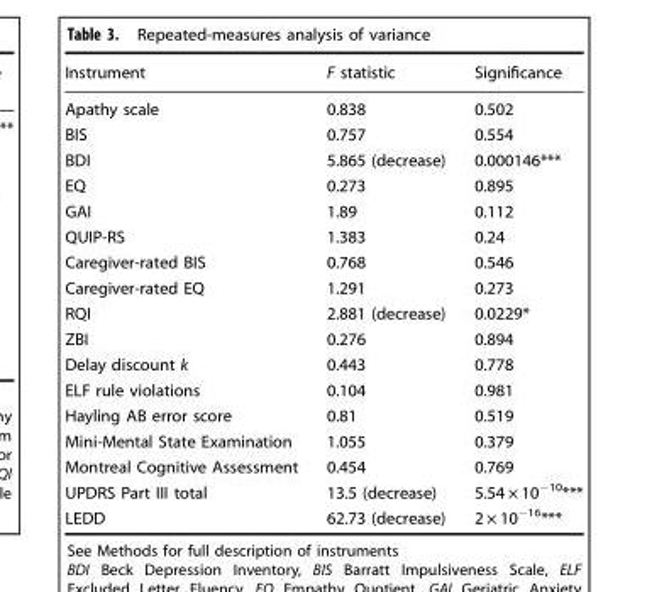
<table><thead><tr><td>Instrument</td><td>F statistic</td><td>Significance</td></tr></thead><tbody><tr><td>Apathy scale</td><td>0.838</td><td>0.502</td></tr><tr><td>BIS</td><td>0.757</td><td>0.554</td></tr><tr><td>BDI</td><td>5.865 (decrease)</td><td>0.000146***</td></tr><tr><td>EQ</td><td>0.273</td><td>0.895</td></tr><tr><td>GAI</td><td>1.89</td><td>0.112</td></tr><tr><td>QUIP-RS</td><td>1.383</td><td>0.24</td></tr><tr><td>Caregiver-rated BIS</td><td>0.768</td><td>0.546</td></tr><tr><td>Caregiver-rated EQ</td><td>1.291</td><td>0.273</td></tr><tr><td>RQI</td><td>2.881 (decrease)</td><td>0.0229*</td></tr><tr><td>ZBI</td><td>0.276</td><td>0.894</td></tr><tr><td>Delay discount k</td><td>0.443</td><td>0.778</td></tr><tr><td>ELF rule violations</td><td>0.104</td><td>0.981</td></tr><tr><td>Hayling AB error score</td><td>0.81</td><td>0.519</td></tr><tr><td>Mini-Mental State Examination</td><td>1.055</td><td>0.379</td></tr><tr><td>Montreal Cognitive Assessment</td><td>0.454</td><td>0.769</td></tr><tr><td>UPDRS Part III total</td><td>13.5 (decrease)</td><td>5.54 × 10<sup>−10</sup>***</td></tr><tr><td>LEDD</td><td>62.73 (decrease)</td><td>2 × 10<sup>−16</sup>***</td></tr></tbody></table>